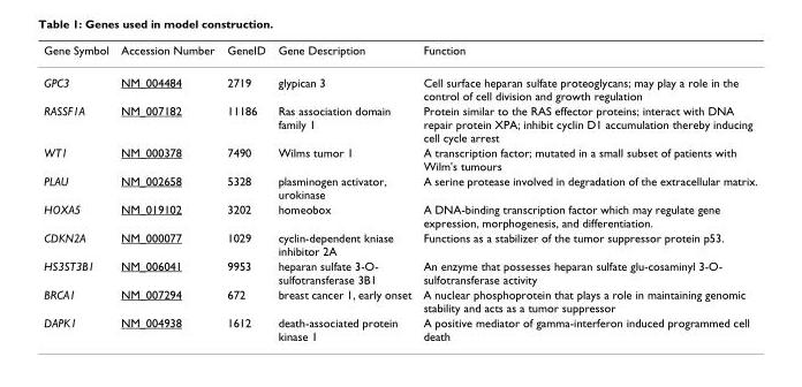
<table><thead><tr><td>Gene Symbol</td><td>Accession Number</td><td>GeneID</td><td>Gene Description</td><td>Function</td></tr></thead><tbody><tr><td>GPC3</td><td>NM_004484</td><td>2719</td><td>glypican 3</td><td>Cell surface heparan sulfate proteoglycans; may play a role in the control of cell division and growth regulation</td></tr><tr><td>RASSF1A</td><td>NM_007182</td><td>11186</td><td>Ras association domain family 1</td><td>Protein similar to the RAS effector proteins; interact with DNA repair protein XPA; inhibit cyclin D1 accumulation thereby inducing cell cycle arrest</td></tr><tr><td>WT1</td><td>NM_000378</td><td>7490</td><td>Wilms tumor 1</td><td>A transcription factor; mutated in a small subset of patients with Wilm&#x27;s tumours</td></tr><tr><td>PLAU</td><td>NM_002658</td><td>5328</td><td>plasminogen activator, urokinase</td><td>A serine protease involved in degradation of the extracellular matrix.</td></tr><tr><td>HOXA5</td><td>NM_019102</td><td>3202</td><td>homeobox</td><td>A DNA-binding transcription factor which may regulate gene expression, morphogenesis, and differentiation.</td></tr><tr><td>CDKN2A</td><td>NM_000077</td><td>1029</td><td>cyclin-dependent kniase inhibitor 2A</td><td>Functions as a stabilizer of the tumor suppressor protein p53.</td></tr><tr><td>HS3ST3B1</td><td>NM_006041</td><td>9953</td><td>heparan sulfate 3-O- sulfotransferase 3B1</td><td>An enzyme that possesses heparan sulfate glu-cosaminyl 3-O- sulfotransferase activity</td></tr><tr><td>BRCA1</td><td>NM_007294</td><td>672</td><td>breast cancer 1, early onset</td><td>A nuclear phosphoprotein that plays a role in maintaining genomic stability and acts as a tumor suppressor</td></tr><tr><td>DAPK1</td><td>NM_004938</td><td>1612</td><td>death-associated protein kinase 1</td><td>A positive mediator of gamma-interferon induced programmed cell death</td></tr></tbody></table>